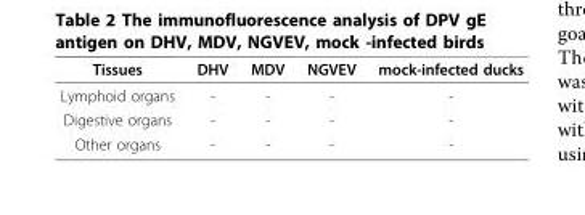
<table><thead><tr><td>Tissues</td><td>DHV</td><td>MDV</td><td>NGVEV</td><td>mock-infected ducks</td></tr></thead><tbody><tr><td>Lymphoid organs</td><td>-</td><td>-</td><td>-</td><td>-</td></tr><tr><td>Digestive organs</td><td>-</td><td>-</td><td>-</td><td>-</td></tr><tr><td>Other organs</td><td>-</td><td>-</td><td>-</td><td>-</td></tr></tbody></table>